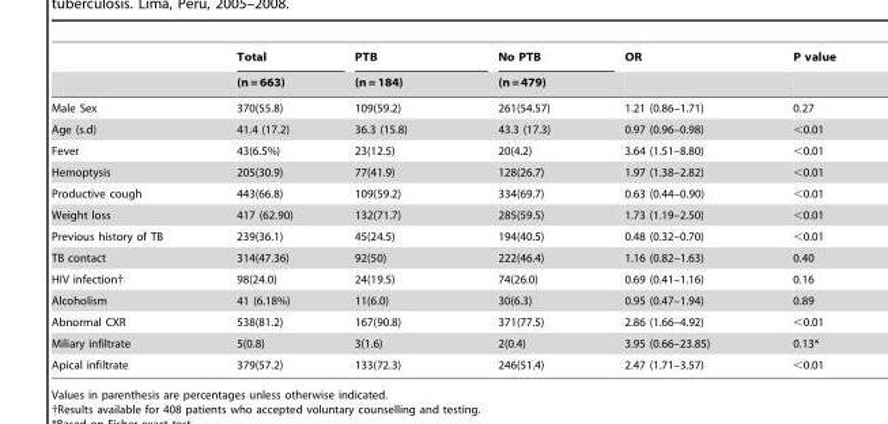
<table><thead><tr><td rowspan="2"></td><td rowspan="2">Total (n = 663)</td><td rowspan="2">PTB (n = 184)</td><td rowspan="2">No PTB (n = 479)</td><td rowspan="2">OR</td><td rowspan="2">P value</td></tr><tr></tr></thead><tbody><tr><td>Male Sex</td><td>370(55.8)</td><td>109(59.2)</td><td>261(54.57)</td><td>1.21 (0.86–1.71)</td><td>0.27</td></tr><tr><td>Age (s.d)</td><td>41.4 (17.2)</td><td>36.3 (15.8)</td><td>43.3 (17.3)</td><td>0.97 (0.96–0.98)</td><td>&lt;0.01</td></tr><tr><td>Fever</td><td>43(6.5%)</td><td>23(12.5)</td><td>20(4.2)</td><td>3.64 (1.51–8.80)</td><td>&lt;0.01</td></tr><tr><td>Hemoptysis</td><td>205(30.9)</td><td>77(41.9)</td><td>128(26.7)</td><td>1.97 (1.38–2.82)</td><td>&lt;0.01</td></tr><tr><td>Productive cough</td><td>443(66.8)</td><td>109(59.2)</td><td>334(69.7)</td><td>0.63 (0.44–0.90)</td><td>&lt;0.01</td></tr><tr><td>Weight loss</td><td>417 (62.90)</td><td>132(71.7)</td><td>285(59.5)</td><td>1.73 (1.19–2.50)</td><td>&lt;0.01</td></tr><tr><td>Previous history of TB</td><td>239(36.1)</td><td>45(24.5)</td><td>194(40.5)</td><td>0.48 (0.32–0.70)</td><td>&lt;0.01</td></tr><tr><td>TB contact</td><td>314(47.36)</td><td>92(50)</td><td>222(46.4)</td><td>1.16 (0.82–1.63)</td><td>0.40</td></tr><tr><td>HIV infection†</td><td>98(24.0)</td><td>24(19.5)</td><td>74(26.0)</td><td>0.69 (0.41–1.16)</td><td>0.16</td></tr><tr><td>Alcoholism</td><td>41 (6.18%)</td><td>11(6.0)</td><td>30(6.3)</td><td>0.95 (0.47–1.94)</td><td>0.89</td></tr><tr><td>Abnormal CXR</td><td>538(81.2)</td><td>167(90.8)</td><td>371(77.5)</td><td>2.86 (1.66–4.92)</td><td>&lt;0.01</td></tr><tr><td>Miliary infiltrate</td><td>5(0.8)</td><td>3(1.6)</td><td>2(0.4)</td><td>3.95 (0.66–23.85)</td><td>0.13*</td></tr><tr><td>Apical infiltrate</td><td>379(57.2)</td><td>133(72.3)</td><td>246(51.4)</td><td>2.47 (1.71–3.57)</td><td>&lt;0.01</td></tr></tbody></table>